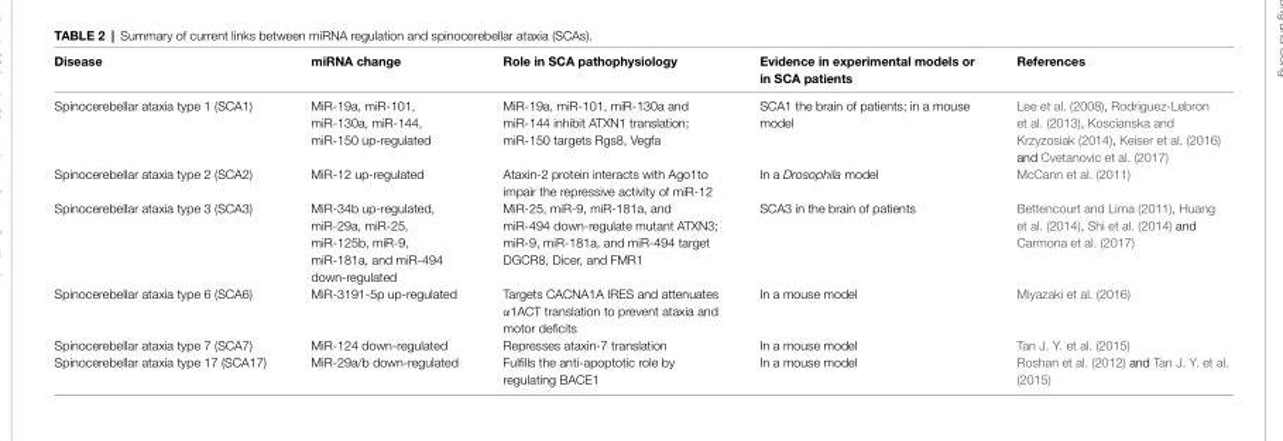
<table><thead><tr><td>Disease</td><td>miRNA change</td><td>Role in SCA pathophysiology</td><td>Evidence in experimental models or in SCA patients</td><td>References</td></tr></thead><tbody><tr><td>Spinocerebellar ataxia type 1 (SCA1)</td><td>MiR-19a, miR-101, miR-130a, miR-144, miR-150 up-regulated</td><td>MiR-19a, miR-101, miR-130a and miR-144 inhibit ATXN1 translation; miR-150 targets Rgs8, Vegfa</td><td>SCA1 the brain of patients; in a mouse model</td><td>Lee et al. (2008), Rodriguez-Lebron et al. (2013), Koscianska and Krzyzosiak (2014), Keiser et al. (2016) and Cvetanovic et al. (2017)</td></tr><tr><td>Spinocerebellar ataxia type 2 (SCA2)</td><td>MiR-12 up-regulated</td><td>Ataxin-2 protein interacts with Ago1to impair the repressive activity of miR-12</td><td>In a Drosophila model</td><td>McCann et al. (2011)</td></tr><tr><td>Spinocerebellar ataxia type 3 (SCA3)</td><td>MiR-34b up-regulated, miR-29a, miR-25, miR-125b, miR-9, miR-181a, and miR-494 down-regulated</td><td>MiR-25, miR-9, miR-181a, and miR-494 down-regulate mutant ATXN3; miR-9, miR-181a, and miR-494 target DGCR8, Dicer, and FMR1</td><td>SCA3 in the brain of patients</td><td>Bettencourt and Lima (2011), Huang et al. (2014), Shi et al. (2014) and Carmona et al. (2017)</td></tr><tr><td>Spinocerebellar ataxia type 6 (SCA6)</td><td>MiR-3191-5p up-regulated</td><td>Targets CACNA1A IRES and attenuates α1ACT translation to prevent ataxia and motor deficits</td><td>In a mouse model</td><td>Miyazaki et al. (2016)</td></tr><tr><td>Spinocerebellar ataxia type 7 (SCA7)</td><td>MiR-124 down-regulated</td><td>Represses ataxin-7 translation</td><td>In a mouse model</td><td>Tan J. Y. et al. (2015)</td></tr><tr><td>Spinocerebellar ataxia type 17 (SCA17)</td><td>MiR-29a/b down-regulated</td><td>Fulfills the anti-apoptotic role by regulating BACE1</td><td>In a mouse model</td><td>Roshan et al. (2012) and Tan J. Y. et al. (2015)</td></tr></tbody></table>